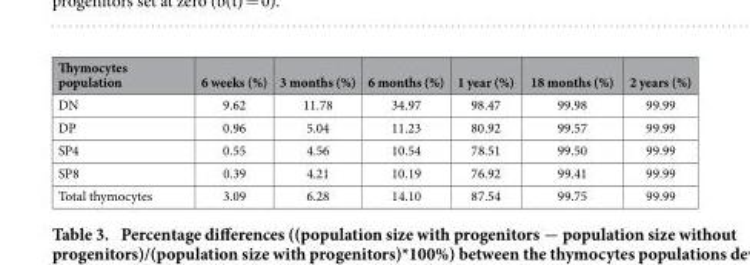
<table><thead><tr><td>Thymocytes population</td><td>6 weeks (%)</td><td>3 months (%)</td><td>6 months (%)</td><td>1 year (%)</td><td>18 months (%)</td><td>2 years (%)</td></tr></thead><tbody><tr><td>DN</td><td>9.62</td><td>11.78</td><td>34.97</td><td>98.47</td><td>99.98</td><td>99.99</td></tr><tr><td>DP</td><td>0.96</td><td>5.04</td><td>11.23</td><td>80.92</td><td>99.57</td><td>99.99</td></tr><tr><td>SP4</td><td>0.55</td><td>4.56</td><td>10.54</td><td>78.51</td><td>99.50</td><td>99.99</td></tr><tr><td>SP8</td><td>0.39</td><td>4.21</td><td>10.19</td><td>76.92</td><td>99.41</td><td>99.99</td></tr><tr><td>Total thymocytes</td><td>3.09</td><td>6.28</td><td>14.10</td><td>87.54</td><td>99.75</td><td>99.99</td></tr></tbody></table>